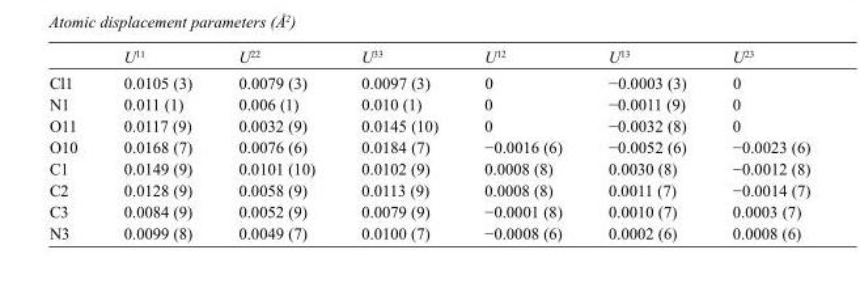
<table><thead><tr><td></td><td>U<sup>11</sup></td><td>U<sup>22</sup></td><td>U<sup>33</sup></td><td>U<sup>12</sup></td><td>U<sup>13</sup></td><td>U<sup>23</sup></td></tr></thead><tbody><tr><td>Cl1</td><td>0.0105 (3)</td><td>0.0079 (3)</td><td>0.0097 (3)</td><td>0</td><td>−0.0003 (3)</td><td>0</td></tr><tr><td>N1</td><td>0.011 (1)</td><td>0.006 (1)</td><td>0.010 (1)</td><td>0</td><td>−0.0011 (9)</td><td>0</td></tr><tr><td>O11</td><td>0.0117 (9)</td><td>0.0032 (9)</td><td>0.0145 (10)</td><td>0</td><td>−0.0032 (8)</td><td>0</td></tr><tr><td>O10</td><td>0.0168 (7)</td><td>0.0076 (6)</td><td>0.0184 (7)</td><td>−0.0016 (6)</td><td>−0.0052 (6)</td><td>−0.0023 (6)</td></tr><tr><td>C1</td><td>0.0149 (9)</td><td>0.0101 (10)</td><td>0.0102 (9)</td><td>0.0008 (8)</td><td>0.0030 (8)</td><td>−0.0012 (8)</td></tr><tr><td>C2</td><td>0.0128 (9)</td><td>0.0058 (9)</td><td>0.0113 (9)</td><td>0.0008 (8)</td><td>0.0011 (7)</td><td>−0.0014 (7)</td></tr><tr><td>C3</td><td>0.0084 (9)</td><td>0.0052 (9)</td><td>0.0079 (9)</td><td>−0.0001 (8)</td><td>0.0010 (7)</td><td>0.0003 (7)</td></tr><tr><td>N3</td><td>0.0099 (8)</td><td>0.0049 (7)</td><td>0.0100 (7)</td><td>−0.0008 (6)</td><td>0.0002 (6)</td><td>0.0008 (6)</td></tr></tbody></table>